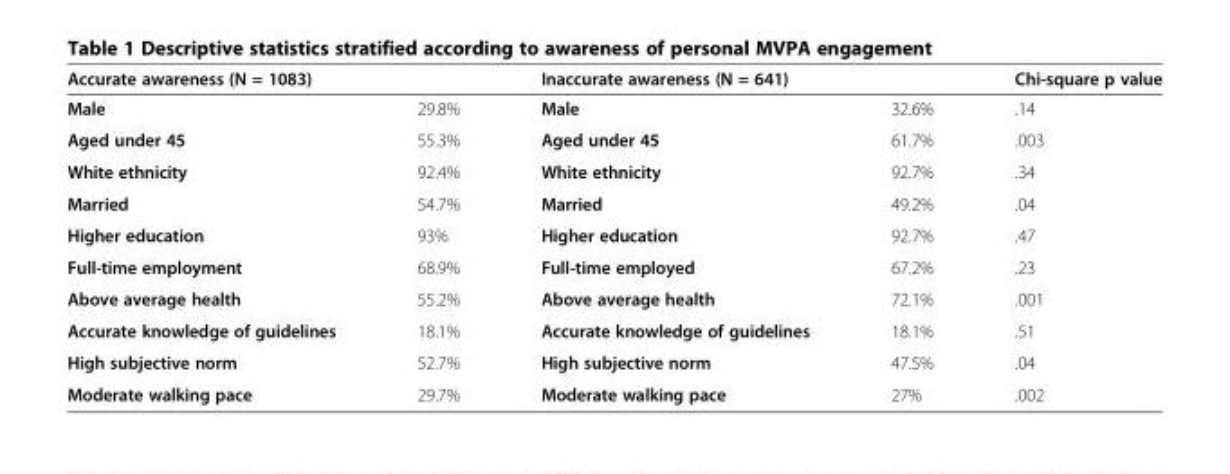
<table><thead><tr><td colspan="2">Accurate awareness (N = 1083)</td><td colspan="2">Inaccurate awareness (N = 641)</td><td rowspan="2">Chi-square p value .14</td></tr><tr><td>Male</td><td>29.8%</td><td>Male</td><td>32.6%</td></tr></thead><tbody><tr><td>Aged under 45</td><td>55.3%</td><td>Aged under 45</td><td>61.7%</td><td>.003</td></tr><tr><td>White ethnicity</td><td>92.4%</td><td>White ethnicity</td><td>92.7%</td><td>.34</td></tr><tr><td>Married</td><td>54.7%</td><td>Married</td><td>49.2%</td><td>.04</td></tr><tr><td>Higher education</td><td>93%</td><td>Higher education</td><td>92.7%</td><td>.47</td></tr><tr><td>Full-time employment</td><td>68.9%</td><td>Full-time employed</td><td>67.2%</td><td>.23</td></tr><tr><td>Above average health</td><td>55.2%</td><td>Above average health</td><td>72.1%</td><td>.001</td></tr><tr><td>Accurate knowledge of guidelines</td><td>18.1%</td><td>Accurate knowledge of guidelines</td><td>18.1%</td><td>.51</td></tr><tr><td>High subjective norm</td><td>52.7%</td><td>High subjective norm</td><td>47.5%</td><td>.04</td></tr><tr><td>Moderate walking pace</td><td>29.7%</td><td>Moderate walking pace</td><td>27%</td><td>.002</td></tr></tbody></table>